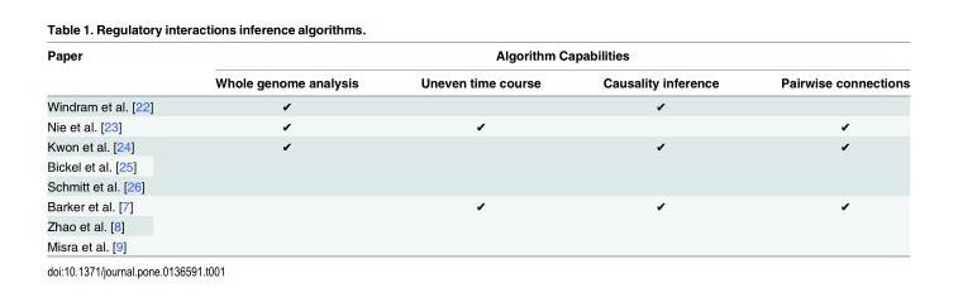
<table><thead><tr><td rowspan="2">Paper</td><td colspan="4">Algorithm Capabilities</td></tr><tr><td>Whole genome analysis</td><td>Uneven time course</td><td>Causality inference</td><td>Pairwise connections</td></tr></thead><tbody><tr><td>Windram et al. [22]</td><td>✔</td><td></td><td>✔</td><td></td></tr><tr><td>Nie et al. [23]</td><td>✔</td><td>✔</td><td></td><td>✔</td></tr><tr><td>Kwon et al. [24]</td><td rowspan="3">✔</td><td rowspan="3"></td><td rowspan="3">✔</td><td rowspan="3">✔</td></tr><tr><td>Bickel et al. [25]</td></tr><tr><td>Schmitt et al. [26]</td></tr><tr><td>Barker et al. [7]</td><td rowspan="3"></td><td rowspan="3">✔</td><td rowspan="3">✔</td><td rowspan="3">✔</td></tr><tr><td>Zhao et al. [8]</td></tr><tr><td>Misra et al. [9]</td></tr></tbody></table>